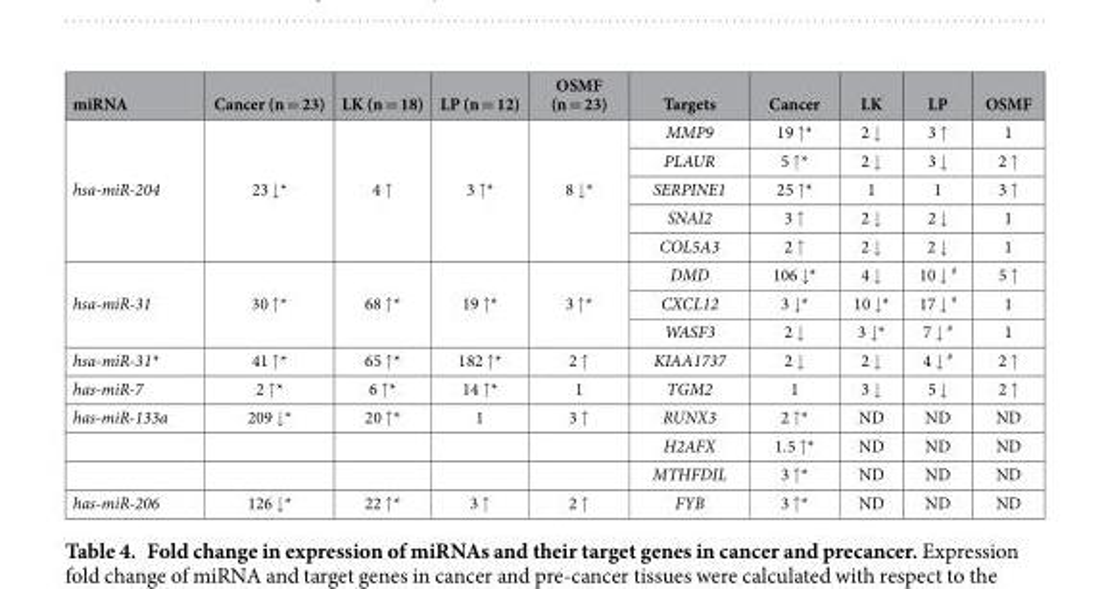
<table><thead><tr><td>miRNA</td><td>Cancer (n = 23)</td><td>LK (n = 18)</td><td>LP (n = 12)</td><td>OSMF (n = 23)</td><td>Targets</td><td>Cancer</td><td>LK</td><td>LP</td><td>OSMF</td></tr></thead><tbody><tr><td rowspan="5">hsa-miR-204</td><td rowspan="5">23 ↓ *</td><td rowspan="5">4 ↑</td><td rowspan="5">3 ↑ *</td><td rowspan="5">8 ↓ *</td><td>MMP9</td><td>19 ↑ *</td><td>2 ↓</td><td>3 ↑</td><td>1</td></tr><tr><td>PLAUR</td><td>5 ↑ *</td><td>2 ↓</td><td>3 ↓</td><td>2 ↑</td></tr><tr><td>SERPINE1</td><td>25 ↑ *</td><td>1</td><td>1</td><td>3 ↑</td></tr><tr><td>SNAI2</td><td>3 ↑</td><td>2 ↓</td><td>2 ↓</td><td>1</td></tr><tr><td>COL5A3</td><td>2 ↑</td><td>2 ↓</td><td>2 ↓</td><td>1</td></tr><tr><td rowspan="3">hsa-miR-31</td><td rowspan="3">30 ↑ *</td><td rowspan="3">68 ↑ *</td><td rowspan="3">19 ↑ *</td><td rowspan="3">3 ↑ *</td><td>DMD</td><td>106 ↓ *</td><td>4 ↓</td><td>10 ↓ #</td><td>5 ↑</td></tr><tr><td>CXCL12</td><td>3 ↓ *</td><td>10 ↓ *</td><td>17 ↓ #</td><td>1</td></tr><tr><td>WASF3</td><td>2 ↓</td><td>3 ↓ *</td><td>7 ↓ #</td><td>1</td></tr><tr><td>hsa-miR-31*</td><td>41 ↑ *</td><td>65 ↑ *</td><td>182 ↑ *</td><td>2 ↑</td><td>KIAA1737</td><td>2 ↓</td><td>2 ↓</td><td>4 ↓ #</td><td>2 ↑</td></tr><tr><td>has-miR-7</td><td>2 ↑ *</td><td>6 ↑ *</td><td>14 ↑ *</td><td>1</td><td>TGM2</td><td>1</td><td>3 ↓</td><td>5 ↓</td><td>2 ↑</td></tr><tr><td rowspan="3">has-miR-133a</td><td>209 ↓ *</td><td>20 ↑ *</td><td>1</td><td>3 ↑</td><td>RUNX3</td><td>2 ↑ *</td><td>ND</td><td>ND</td><td>ND</td></tr><tr><td></td><td></td><td></td><td></td><td>H2AFX</td><td>1.5 ↑ *</td><td>ND</td><td>ND</td><td>ND</td></tr><tr><td></td><td></td><td></td><td></td><td>MTHFDIL</td><td>3 ↑ *</td><td>ND</td><td>ND</td><td>ND</td></tr><tr><td>has-miR-206</td><td>126 ↓ *</td><td>22 ↑ *</td><td>3 ↑</td><td>2 ↑</td><td>FYB</td><td>3 ↑ *</td><td>ND</td><td>ND</td><td>ND</td></tr></tbody></table>